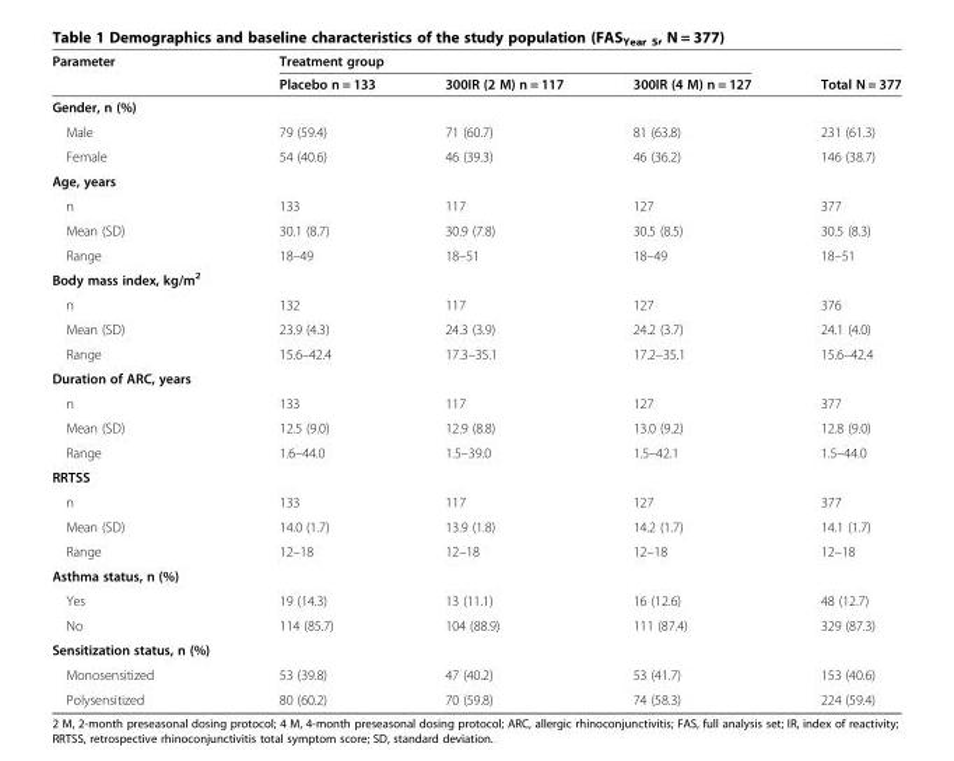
<table><thead><tr><td rowspan="2">Parameter</td><td colspan="3">Treatment group</td><td rowspan="2">Total N = 377</td></tr><tr><td>Placebo n = 133</td><td>300IR (2 M) n = 117</td><td>300IR (4 M) n = 127</td></tr></thead><tbody><tr><td colspan="5">Gender, n (%)</td></tr><tr><td>Male</td><td>79 (59.4)</td><td>71 (60.7)</td><td>81 (63.8)</td><td>231 (61.3)</td></tr><tr><td>Female</td><td>54 (40.6)</td><td>46 (39.3)</td><td>46 (36.2)</td><td>146 (38.7)</td></tr><tr><td colspan="5">Age, years</td></tr><tr><td>n</td><td>133</td><td>117</td><td>127</td><td>377</td></tr><tr><td>Mean (SD)</td><td>30.1 (8.7)</td><td>30.9 (7.8)</td><td>30.5 (8.5)</td><td>30.5 (8.3)</td></tr><tr><td>Range</td><td>18–49</td><td>18–51</td><td>18–49</td><td>18–51</td></tr><tr><td colspan="5">Body mass index, kg/m<sup>2</sup></td></tr><tr><td>n</td><td>132</td><td>117</td><td>127</td><td>376</td></tr><tr><td>Mean (SD)</td><td>23.9 (4.3)</td><td>24.3 (3.9)</td><td>24.2 (3.7)</td><td>24.1 (4.0)</td></tr><tr><td>Range</td><td>15.6–42.4</td><td>17.3–35.1</td><td>17.2–35.1</td><td>15.6–42.4</td></tr><tr><td colspan="5">Duration of ARC, years</td></tr><tr><td>n</td><td>133</td><td>117</td><td>127</td><td>377</td></tr><tr><td>Mean (SD)</td><td>12.5 (9.0)</td><td>12.9 (8.8)</td><td>13.0 (9.2)</td><td>12.8 (9.0)</td></tr><tr><td>Range</td><td>1.6–44.0</td><td>1.5–39.0</td><td>1.5–42.1</td><td>1.5–44.0</td></tr><tr><td colspan="5">RRTSS</td></tr><tr><td>n</td><td>133</td><td>117</td><td>127</td><td>377</td></tr><tr><td>Mean (SD)</td><td>14.0 (1.7)</td><td>13.9 (1.8)</td><td>14.2 (1.7)</td><td>14.1 (1.7)</td></tr><tr><td>Range</td><td>12–18</td><td>12–18</td><td>12–18</td><td>12–18</td></tr><tr><td colspan="5">Asthma status, n (%)</td></tr><tr><td>Yes</td><td>19 (14.3)</td><td>13 (11.1)</td><td>16 (12.6)</td><td>48 (12.7)</td></tr><tr><td>No</td><td>114 (85.7)</td><td>104 (88.9)</td><td>111 (87.4)</td><td>329 (87.3)</td></tr><tr><td colspan="5">Sensitization status, n (%)</td></tr><tr><td>Monosensitized</td><td>53 (39.8)</td><td>47 (40.2)</td><td>53 (41.7)</td><td>153 (40.6)</td></tr><tr><td>Polysensitized</td><td>80 (60.2)</td><td>70 (59.8)</td><td>74 (58.3)</td><td>224 (59.4)</td></tr></tbody></table>